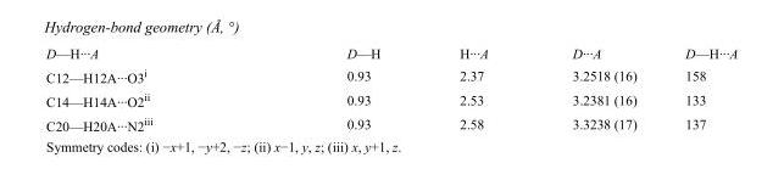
<table><tbody><tr><td>D—H···A</td><td>D—H</td><td>H···A</td><td>D···A</td><td>D—H···A</td></tr><tr><td>C12—H12A···O3<sup>i</sup></td><td>0.93</td><td>2.37</td><td>3.2518 (16)</td><td>158</td></tr><tr><td>C14—H14A···O2<sup>ii</sup></td><td>0.93</td><td>2.53</td><td>3.2381 (16)</td><td>133</td></tr><tr><td>C20—H20A···N2<sup>iii</sup></td><td>0.93</td><td>2.58</td><td>3.3238 (17)</td><td>137</td></tr></tbody></table>